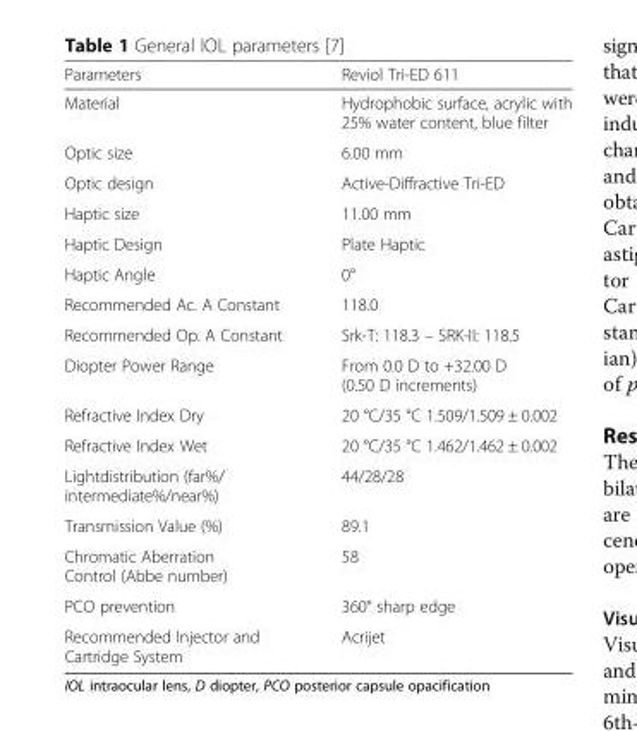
<table><thead><tr><td>Parameters</td><td>Reviol Tri-ED 611</td></tr></thead><tbody><tr><td>Material</td><td>Hydrophobic surface, acrylic with 25% water content, blue filter</td></tr><tr><td>Optic size</td><td>6.00 mm</td></tr><tr><td>Optic design</td><td>Active-Diffractive Tri-ED</td></tr><tr><td>Haptic size</td><td>11.00 mm</td></tr><tr><td>Haptic Design</td><td>Plate Haptic</td></tr><tr><td>Haptic Angle</td><td>0°</td></tr><tr><td>Recommended Ac. A Constant</td><td>118.0</td></tr><tr><td>Recommended Op. A Constant</td><td>Srk-T: 118.3 – SRK-II: 118.5</td></tr><tr><td>Diopter Power Range</td><td>From 0.0 D to +32.00 D (0.50 D increments)</td></tr><tr><td>Refractive Index Dry</td><td>20 °C/35 °C 1.509/1.509 ± 0.002</td></tr><tr><td>Refractive Index Wet</td><td>20 °C/35 °C 1.462/1.462 ± 0.002</td></tr><tr><td>Lightdistribution (far%/ intermediate%/near%)</td><td>44/28/28</td></tr><tr><td>Transmission Value (%)</td><td>89.1</td></tr><tr><td>Chromatic Aberration Control (Abbe number)</td><td>58</td></tr><tr><td>PCO prevention</td><td>360° sharp edge</td></tr><tr><td>Recommended Injector and Cartridge System</td><td>Acrijet</td></tr></tbody></table>